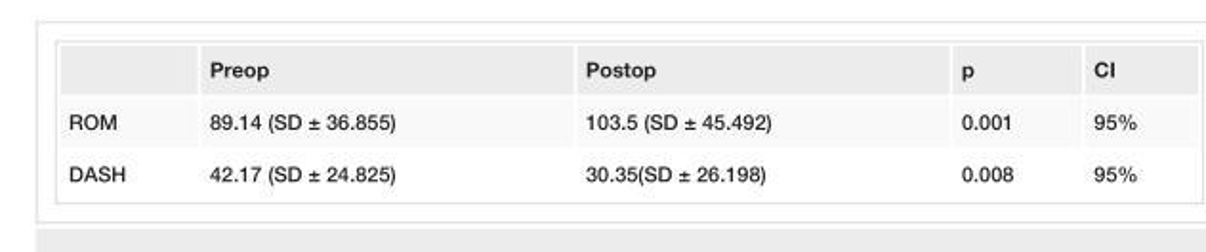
<table><thead><tr><td></td><td>Preop</td><td>Postop</td><td>p</td><td>CI</td></tr></thead><tbody><tr><td>ROM</td><td>89.14 (SD ± 36.855)</td><td>103.5 (SD ± 45.492)</td><td>0.001</td><td>95%</td></tr><tr><td>DASH</td><td>42.17 (SD ± 24.825)</td><td>30.35(SD ± 26.198)</td><td>0.008</td><td>95%</td></tr></tbody></table>